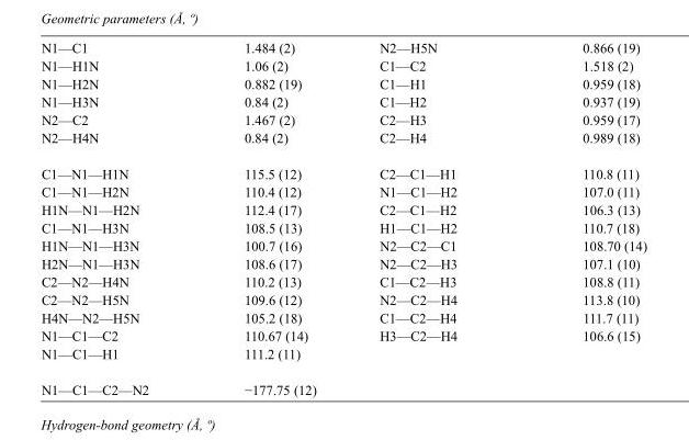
<table><tbody><tr><td>N1—C1</td><td>1.484 (2)</td><td>N2—H5N</td><td>0.866 (19)</td></tr><tr><td>N1—H1N</td><td>1.06 (2)</td><td>C1—C2</td><td>1.518 (2)</td></tr><tr><td>N1—H2N</td><td>0.882 (19)</td><td>C1—H1</td><td>0.959 (18)</td></tr><tr><td>N1—H3N</td><td>0.84 (2)</td><td>C1—H2</td><td>0.937 (19)</td></tr><tr><td>N2—C2</td><td>1.467 (2)</td><td>C2—H3</td><td>0.959 (17)</td></tr><tr><td>N2—H4N</td><td>0.84 (2)</td><td>C2—H4</td><td>0.989 (18)</td></tr><tr><td>C1—N1—H1N</td><td>115.5 (12)</td><td>C2—C1—H1</td><td>110.8 (11)</td></tr><tr><td>C1—N1—H2N</td><td>110.4 (12)</td><td>N1—C1—H2</td><td>107.0 (11)</td></tr><tr><td>H1N—N1—H2N</td><td>112.4 (17)</td><td>C2—C1—H2</td><td>106.3 (13)</td></tr><tr><td>C1—N1—H3N</td><td>108.5 (13)</td><td>H1—C1—H2</td><td>110.7 (18)</td></tr><tr><td>H1N—N1—H3N</td><td>100.7 (16)</td><td>N2—C2—C1</td><td>108.70 (14)</td></tr><tr><td>H2N—N1—H3N</td><td>108.6 (17)</td><td>N2—C2—H3</td><td>107.1 (10)</td></tr><tr><td>C2—N2—H4N</td><td>110.2 (13)</td><td>C1—C2—H3</td><td>108.8 (11)</td></tr><tr><td>C2—N2—H5N</td><td>109.6 (12)</td><td>N2—C2—H4</td><td>113.8 (10)</td></tr><tr><td>H4N—N2—H5N</td><td>105.2 (18)</td><td>C1—C2—H4</td><td>111.7 (11)</td></tr><tr><td>N1—C1—C2</td><td>110.67 (14)</td><td>H3—C2—H4</td><td>106.6 (15)</td></tr><tr><td>N1—C1—H1</td><td>111.2 (11)</td><td></td><td></td></tr><tr><td>N1—C1—C2—N2</td><td>−177.75 (12)</td><td></td><td></td></tr></tbody></table>